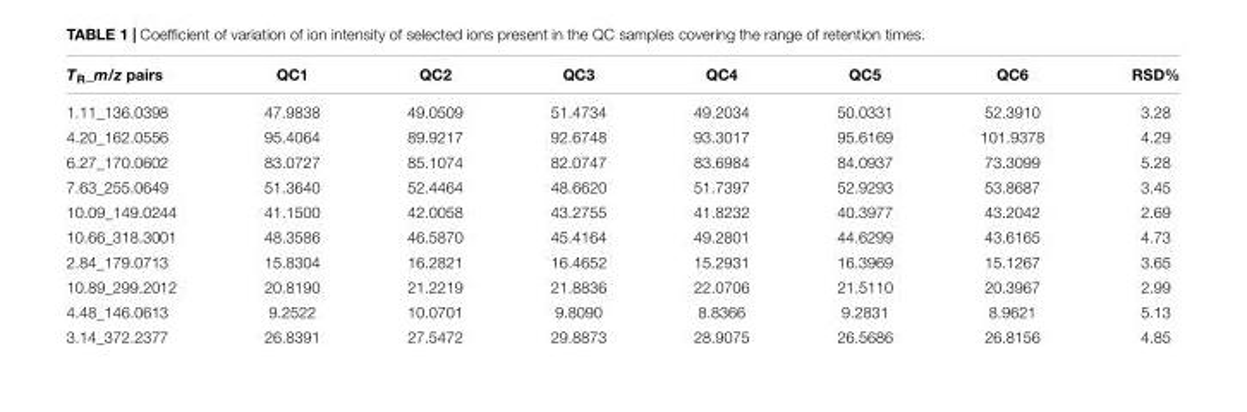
<table><thead><tr><td>TR_m/z pairs</td><td>QC1</td><td>QC2</td><td>QC3</td><td>QC4</td><td>QC5</td><td>QC6</td><td>RSD%</td></tr></thead><tbody><tr><td>1.11_136.0398</td><td>47.9838</td><td>49.0509</td><td>51.4734</td><td>49.2034</td><td>50.0331</td><td>52.3910</td><td>3.28</td></tr><tr><td>4.20_162.0556</td><td>95.4064</td><td>89.9217</td><td>92.6748</td><td>93.3017</td><td>95.6169</td><td>101.9378</td><td>4.29</td></tr><tr><td>6.27_170.0602</td><td>83.0727</td><td>85.1074</td><td>82.0747</td><td>83.6984</td><td>84.0937</td><td>73.3099</td><td>5.28</td></tr><tr><td>7.63_255.0649</td><td>51.3640</td><td>52.4464</td><td>48.6620</td><td>51.7397</td><td>52.9293</td><td>53.8687</td><td>3.45</td></tr><tr><td>10.09_149.0244</td><td>41.1500</td><td>42.0058</td><td>43.2755</td><td>41.8232</td><td>40.3977</td><td>43.2042</td><td>2.69</td></tr><tr><td>10.66_318.3001</td><td>48.3586</td><td>46.5870</td><td>45.4164</td><td>49.2801</td><td>44.6299</td><td>43.6165</td><td>4.73</td></tr><tr><td>2.84_179.0713</td><td>15.8304</td><td>16.2821</td><td>16.4652</td><td>15.2931</td><td>16.3969</td><td>15.1267</td><td>3.65</td></tr><tr><td>10.89_299.2012</td><td>20.8190</td><td>21.2219</td><td>21.8836</td><td>22.0706</td><td>21.5110</td><td>20.3967</td><td>2.99</td></tr><tr><td>4.48_146.0613</td><td>9.2522</td><td>10.0701</td><td>9.8090</td><td>8.8366</td><td>9.2831</td><td>8.9621</td><td>5.13</td></tr><tr><td>3.14_372.2377</td><td>26.8391</td><td>27.5472</td><td>29.8873</td><td>28.9075</td><td>26.5686</td><td>26.8156</td><td>4.85</td></tr></tbody></table>